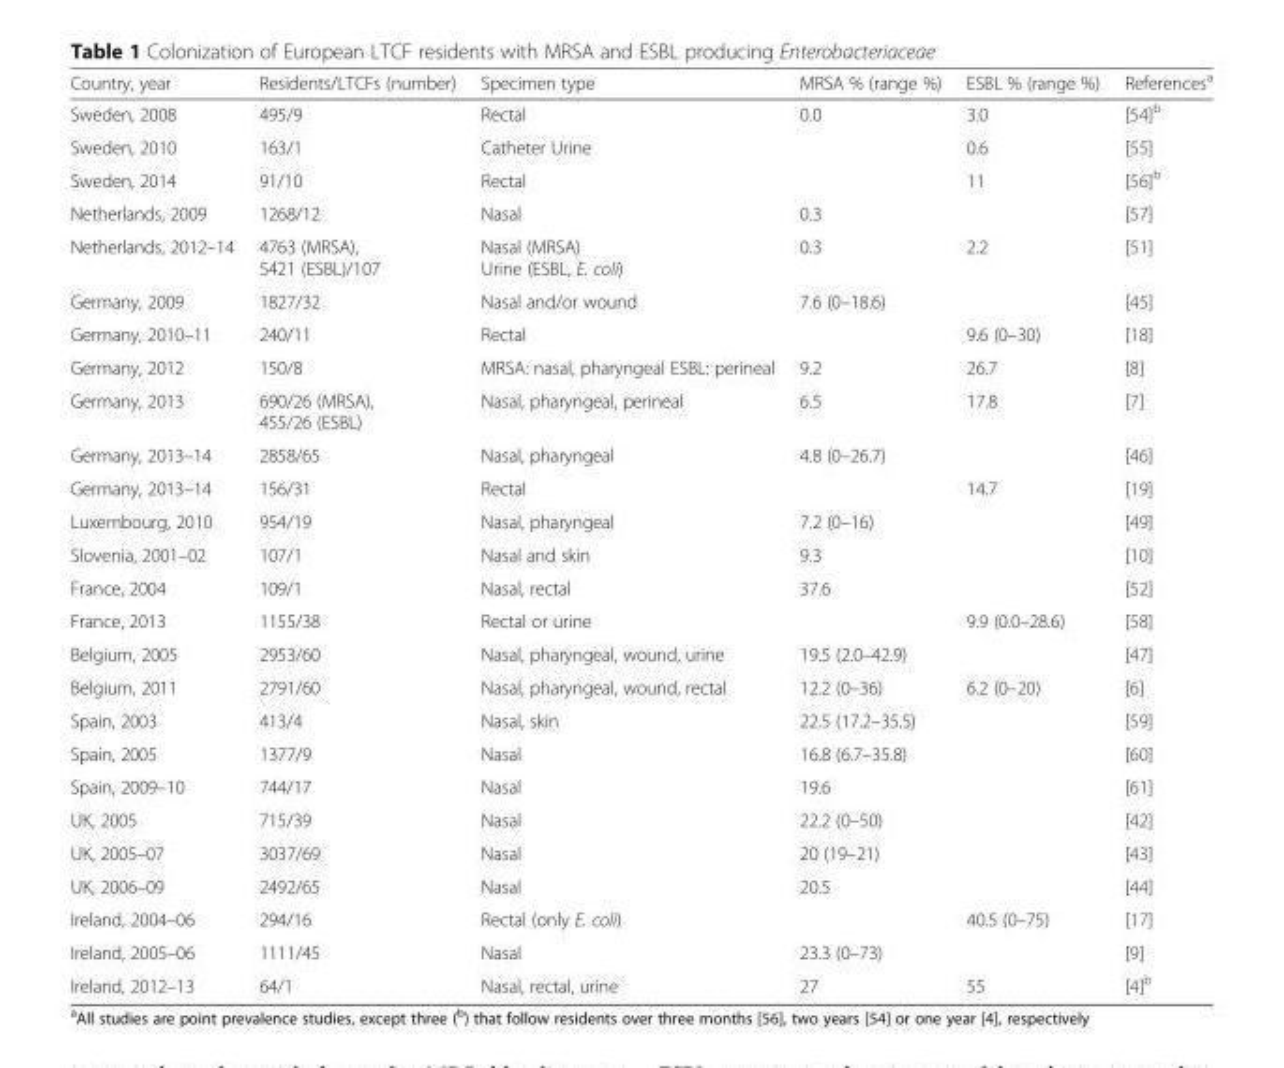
<table><thead><tr><td>Country, year</td><td>Residents/LTCFs (number)</td><td>Specimen type</td><td>MRSA % (range %)</td><td>ESBL % (range %)</td><td>References<sup>a</sup></td></tr></thead><tbody><tr><td>Sweden, 2008</td><td>495/9</td><td>Rectal</td><td>0.0</td><td>3.0</td><td>[54]<sup>b</sup></td></tr><tr><td>Sweden, 2010</td><td>163/1</td><td>Catheter Urine</td><td></td><td>0.6</td><td>[55]</td></tr><tr><td>Sweden, 2014</td><td>91/10</td><td>Rectal</td><td></td><td>11</td><td>[56]<sup>b</sup></td></tr><tr><td>Netherlands, 2009</td><td>1268/12</td><td>Nasal</td><td>0.3</td><td></td><td>[57]</td></tr><tr><td>Netherlands, 2012–14</td><td>4763 (MRSA), 5421 (ESBL)/107</td><td>Nasal (MRSA) Urine (ESBL, E. coli)</td><td>0.3</td><td>2.2</td><td>[51]</td></tr><tr><td>Germany, 2009</td><td>1827/32</td><td>Nasal and/or wound</td><td>7.6 (0–18.6)</td><td></td><td>[45]</td></tr><tr><td>Germany, 2010–11</td><td>240/11</td><td>Rectal</td><td></td><td>9.6 (0–30)</td><td>[18]</td></tr><tr><td>Germany, 2012</td><td>150/8</td><td>MRSA: nasal, pharyngeal ESBL: perineal</td><td>9.2</td><td>26.7</td><td>[8]</td></tr><tr><td>Germany, 2013</td><td>690/26 (MRSA), 455/26 (ESBL)</td><td>Nasal, pharyngeal, perineal</td><td>6.5</td><td>17.8</td><td>[7]</td></tr><tr><td>Germany, 2013–14</td><td>2858/65</td><td>Nasal, pharyngeal</td><td>4.8 (0–26.7)</td><td></td><td>[46]</td></tr><tr><td>Germany, 2013–14</td><td>156/31</td><td>Rectal</td><td></td><td>14.7</td><td>[19]</td></tr><tr><td>Luxembourg, 2010</td><td>954/19</td><td>Nasal, pharyngeal</td><td>7.2 (0–16)</td><td></td><td>[49]</td></tr><tr><td>Slovenia, 2001–02</td><td>107/1</td><td>Nasal and skin</td><td>9.3</td><td></td><td>[10]</td></tr><tr><td>France, 2004</td><td>109/1</td><td>Nasal, rectal</td><td>37.6</td><td></td><td>[52]</td></tr><tr><td>France, 2013</td><td>1155/38</td><td>Rectal or urine</td><td></td><td>9.9 (0.0–28.6)</td><td>[58]</td></tr><tr><td>Belgium, 2005</td><td>2953/60</td><td>Nasal, pharyngeal, wound, urine</td><td>19.5 (2.0–42.9)</td><td></td><td>[47]</td></tr><tr><td>Belgium, 2011</td><td>2791/60</td><td>Nasal, pharyngeal, wound, rectal</td><td>12.2 (0–36)</td><td>6.2 (0–20)</td><td>[6]</td></tr><tr><td>Spain, 2003</td><td>413/4</td><td>Nasal, skin</td><td>22.5 (17.2–35.5)</td><td></td><td>[59]</td></tr><tr><td>Spain, 2005</td><td>1377/9</td><td>Nasal</td><td>16.8 (6.7–35.8)</td><td></td><td>[60]</td></tr><tr><td>Spain, 2009–10</td><td>744/17</td><td>Nasal</td><td>19.6</td><td></td><td>[61]</td></tr><tr><td>UK, 2005</td><td>715/39</td><td>Nasal</td><td>22.2 (0–50)</td><td></td><td>[42]</td></tr><tr><td>UK, 2005–07</td><td>3037/69</td><td>Nasal</td><td>20 (19–21)</td><td></td><td>[43]</td></tr><tr><td>UK, 2006–09</td><td>2492/65</td><td>Nasal</td><td>20.5</td><td></td><td>[44]</td></tr><tr><td>Ireland, 2004–06</td><td>294/16</td><td>Rectal (only E. coli)</td><td></td><td>40.5 (0–75)</td><td>[17]</td></tr><tr><td>Ireland, 2005–06</td><td>1111/45</td><td>Nasal</td><td>23.3 (0–73)</td><td></td><td>[9]</td></tr><tr><td>Ireland, 2012–13</td><td>64/1</td><td>Nasal, rectal, urine</td><td>27</td><td>55</td><td>[4]<sup>b</sup></td></tr></tbody></table>